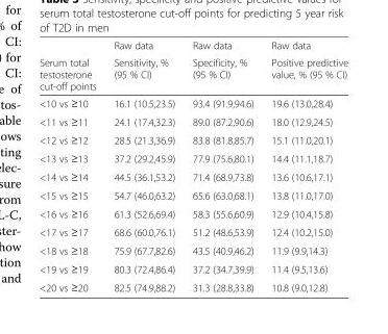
<table><thead><tr><td rowspan="2">Serum total testosterone cut-off points</td><td rowspan="2">Raw data Sensitivity, % (95 % CI)</td><td rowspan="2">Raw data Specificity, % (95 % CI)</td><td rowspan="2">Raw data Positive predictive value, % (95 % CI)</td></tr><tr></tr></thead><tbody><tr><td>&lt;10 vs ≥10</td><td>16.1 (10.5,23.5)</td><td>93.4 (91.9,94.6)</td><td>19.6 (13.0,28.4)</td></tr><tr><td>&lt;11 vs ≥11</td><td>24.1 (17.4,32.3)</td><td>89.0 (87.2,90.6)</td><td>18.0 (12.9,24.5)</td></tr><tr><td>&lt;12 vs ≥12</td><td>28.5 (21.3,36.9)</td><td>83.8 (81.8,85.7)</td><td>15.1 (11.0,20.1)</td></tr><tr><td>&lt;13 vs ≥13</td><td>37.2 (29.2,45.9)</td><td>77.9 (75.6,80.1)</td><td>14.4 (11.1,18.7)</td></tr><tr><td>&lt;14 vs ≥14</td><td>44.5 (36.1,53.2)</td><td>71.4 (68.9,73.8)</td><td>13.6 (10.6,17.1)</td></tr><tr><td>&lt;15 vs ≥15</td><td>54.7 (46.0,63.2)</td><td>65.6 (63.0,68.1)</td><td>13.8 (11.0,17.0)</td></tr><tr><td>&lt;16 vs ≥16</td><td>61.3 (52.6,69.4)</td><td>58.3 (55.6,60.9)</td><td>12.9 (10.4,15.8)</td></tr><tr><td>&lt;17 vs ≥17</td><td>68.6 (60.0,76.1)</td><td>51.2 (48.6,53.9)</td><td>12.4 (10.2,15.0)</td></tr><tr><td>&lt;18 vs ≥18</td><td>75.9 (67.7,82.6)</td><td>43.5 (40.9,46.2)</td><td>11.9 (9.9,14.3)</td></tr><tr><td>&lt;19 vs ≥19</td><td>80.3 (72.4,86.4)</td><td>37.2 (34.7,39.9)</td><td>11.4 (9.5,13.6)</td></tr><tr><td>&lt;20 vs ≥20</td><td>82.5 (74.9,88.2)</td><td>31.3 (28.8,33.8)</td><td>10.8 (9.0,12.8)</td></tr></tbody></table>